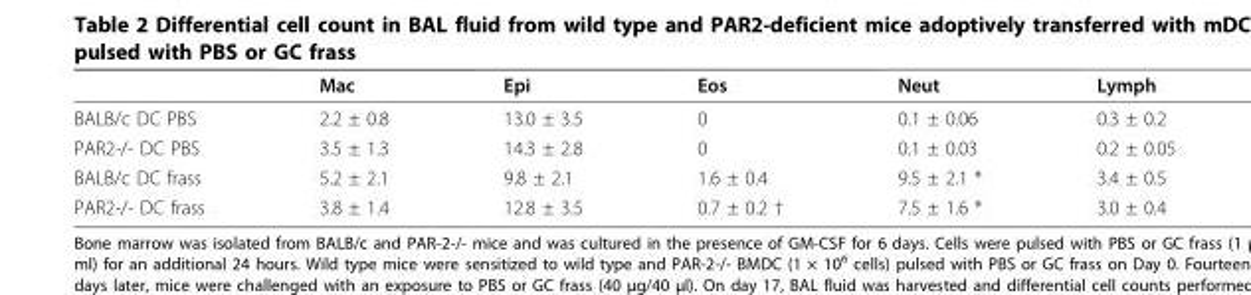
<table><thead><tr><td></td><td>Mac</td><td>Epi</td><td>Eos</td><td>Neut</td><td>Lymph</td></tr></thead><tbody><tr><td>BALB/c DC PBS</td><td>2.2 ± 0.8</td><td>13.0 ± 3.5</td><td>0</td><td>0.1 ± 0.06</td><td>0.3 ± 0.2</td></tr><tr><td>PAR2-/- DC PBS</td><td>3.5 ± 1.3</td><td>14.3 ± 2.8</td><td>0</td><td>0.1 ± 0.03</td><td>0.2 ± 0.05</td></tr><tr><td>BALB/c DC frass</td><td>5.2 ± 2.1</td><td>9.8 ± 2.1</td><td>1.6 ± 0.4</td><td>9.5 ± 2.1 *</td><td>3.4 ± 0.5</td></tr><tr><td>PAR2-/- DC frass</td><td>3.8 ± 1.4</td><td>12.8 ± 3.5</td><td>0.7 ± 0.2 †</td><td>7.5 ± 1.6 *</td><td>3.0 ± 0.4</td></tr></tbody></table>